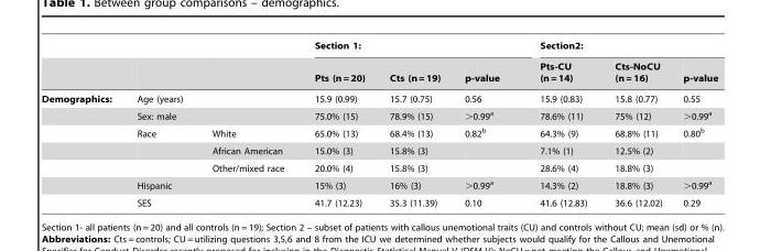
<table><thead><tr><td rowspan="2"></td><td rowspan="2"></td><td rowspan="2"></td><td colspan="3">Section 1:</td><td colspan="3">Section2:</td></tr><tr><td>Pts (n = 20)</td><td>Cts (n = 19)</td><td>p-value</td><td>Pts-CU (n = 14)</td><td>Cts-NoCU (n = 16)</td><td>p-value</td></tr></thead><tbody><tr><td rowspan="7">Demographics:</td><td>Age (years)</td><td></td><td>15.9 (0.99)</td><td>15.7 (0.75)</td><td>0.56</td><td>15.9 (0.83)</td><td>15.8 (0.77)</td><td>0.55</td></tr><tr><td>Sex: male</td><td></td><td>75.0% (15)</td><td>78.9% (15)</td><td>&gt;0.99<sup>a</sup></td><td>78.6% (11)</td><td>75% (12)</td><td>&gt;0.99<sup>a</sup></td></tr><tr><td>Race</td><td>White</td><td>65.0% (13)</td><td>68.4% (13)</td><td>0.82<sup>b</sup></td><td>64.3% (9)</td><td>68.8% (11)</td><td>0.80<sup>b</sup></td></tr><tr><td></td><td>African American</td><td>15.0% (3)</td><td>15.8% (3)</td><td></td><td>7.1% (1)</td><td>12.5% (2)</td><td></td></tr><tr><td></td><td>Other/mixed race</td><td>20.0% (4)</td><td>15.8% (3)</td><td></td><td>28.6% (4)</td><td>18.8% (3)</td><td></td></tr><tr><td>Hispanic</td><td></td><td>15% (3)</td><td>16% (3)</td><td>&gt;0.99<sup>a</sup></td><td>14.3% (2)</td><td>18.8% (3)</td><td>&gt;0.99<sup>a</sup></td></tr><tr><td>SES</td><td></td><td>41.7 (12.23)</td><td>35.3 (11.39)</td><td>0.10</td><td>41.6 (12.83)</td><td>36.6 (12.02)</td><td>0.29</td></tr></tbody></table>